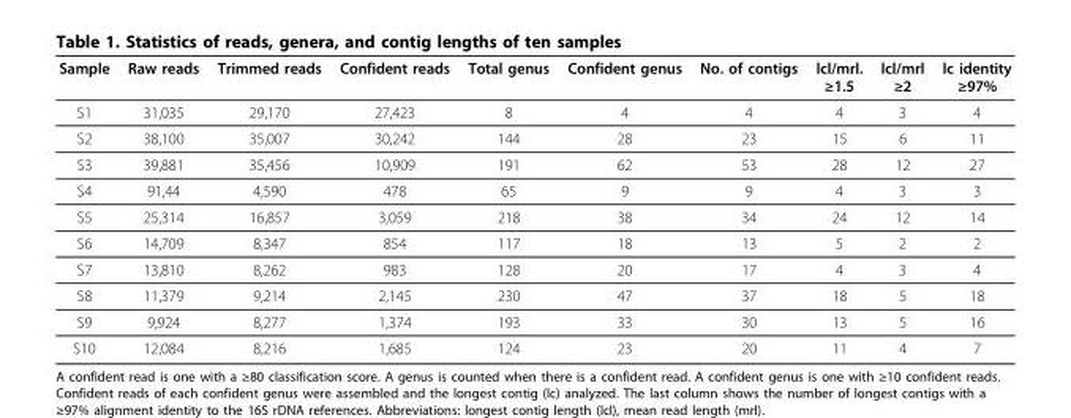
<table><thead><tr><td>Sample</td><td>Raw reads</td><td>Trimmed reads</td><td>Confident reads</td><td>Total genus</td><td>Confident genus</td><td>No. of contigs</td><td>lcl/mrl. ≥1.5</td><td>lcl/mrl ≥2</td><td>lc identity ≥97%</td></tr></thead><tbody><tr><td>S1</td><td>31,035</td><td>29,170</td><td>27,423</td><td>8</td><td>4</td><td>4</td><td>4</td><td>3</td><td>4</td></tr><tr><td>S2</td><td>38,100</td><td>35,007</td><td>30,242</td><td>144</td><td>28</td><td>23</td><td>15</td><td>6</td><td>11</td></tr><tr><td>S3</td><td>39,881</td><td>35,456</td><td>10,909</td><td>191</td><td>62</td><td>53</td><td>28</td><td>12</td><td>27</td></tr><tr><td>S4</td><td>91,44</td><td>4,590</td><td>478</td><td>65</td><td>9</td><td>9</td><td>4</td><td>3</td><td>3</td></tr><tr><td>S5</td><td>25,314</td><td>16,857</td><td>3,059</td><td>218</td><td>38</td><td>34</td><td>24</td><td>12</td><td>14</td></tr><tr><td>S6</td><td>14,709</td><td>8,347</td><td>854</td><td>117</td><td>18</td><td>13</td><td>5</td><td>2</td><td>2</td></tr><tr><td>S7</td><td>13,810</td><td>8,262</td><td>983</td><td>128</td><td>20</td><td>17</td><td>4</td><td>3</td><td>4</td></tr><tr><td>S8</td><td>11,379</td><td>9,214</td><td>2,145</td><td>230</td><td>47</td><td>37</td><td>18</td><td>5</td><td>18</td></tr><tr><td>S9</td><td>9,924</td><td>8,277</td><td>1,374</td><td>193</td><td>33</td><td>30</td><td>13</td><td>5</td><td>16</td></tr><tr><td>S10</td><td>12,084</td><td>8,216</td><td>1,685</td><td>124</td><td>23</td><td>20</td><td>11</td><td>4</td><td>7</td></tr></tbody></table>